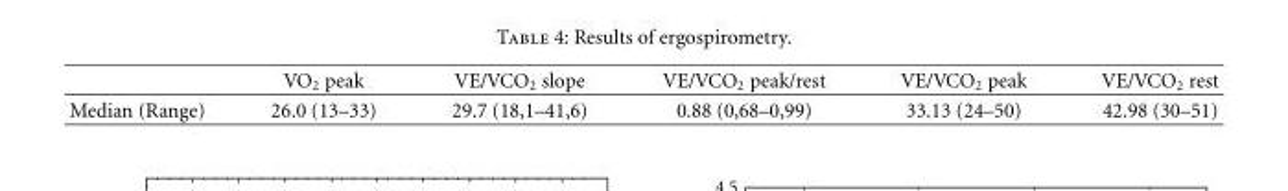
<table><thead><tr><td></td><td>VO<sub>2</sub> peak</td><td>VE/VCO<sub>2</sub> slope</td><td>VE/VCO<sub>2</sub> peak/rest</td><td>VE/VCO<sub>2</sub> peak</td><td>VE/VCO<sub>2</sub> rest</td></tr></thead><tbody><tr><td>Median (Range)</td><td>26.0 (13–33)</td><td>29.7 (18,1–41,6)</td><td>0.88 (0,68–0,99)</td><td>33.13 (24–50)</td><td>42.98 (30–51)</td></tr></tbody></table>